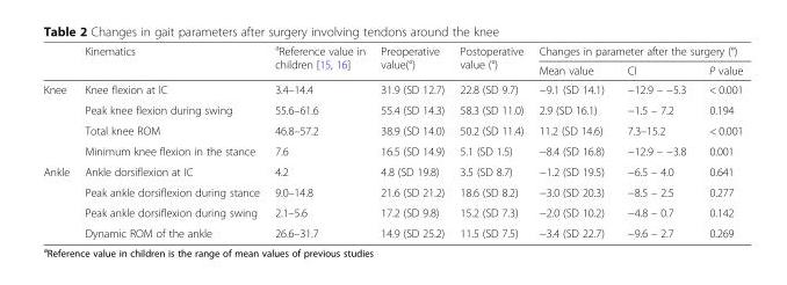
<table><thead><tr><td rowspan="2"></td><td rowspan="2">Kinematics</td><td rowspan="2"><sup>a</sup>Reference value in children [15, 16]</td><td rowspan="2">Preoperative value(°)</td><td rowspan="2">Postoperative value (°)</td><td colspan="3">Changes in parameter after the surgery (°)</td></tr><tr><td>Mean value</td><td>CI</td><td>P value</td></tr></thead><tbody><tr><td rowspan="4">Knee</td><td>Knee flexion at IC</td><td>3.4–14.4</td><td>31.9 (SD 12.7)</td><td>22.8 (SD 9.7)</td><td>−9.1 (SD 14.1)</td><td>−12.9 – −5.3</td><td>&lt; 0.001</td></tr><tr><td>Peak knee flexion during swing</td><td>55.6–61.6</td><td>55.4 (SD 14.3)</td><td>58.3 (SD 11.0)</td><td>2.9 (SD 16.1)</td><td>−1.5 – 7.2</td><td>0.194</td></tr><tr><td>Total knee ROM</td><td>46.8–57.2</td><td>38.9 (SD 14.0)</td><td>50.2 (SD 11.4)</td><td>11.2 (SD 14.6)</td><td>7.3–15.2</td><td>&lt; 0.001</td></tr><tr><td>Minimum knee flexion in the stance</td><td>7.6</td><td>16.5 (SD 14.9)</td><td>5.1 (SD 1.5)</td><td>−8.4 (SD 16.8)</td><td>−12.9 – −3.8</td><td>0.001</td></tr><tr><td rowspan="4">Ankle</td><td>Ankle dorsiflexion at IC</td><td>4.2</td><td>4.8 (SD 19.8)</td><td>3.5 (SD 8.7)</td><td>−1.2 (SD 19.5)</td><td>−6.5 – 4.0</td><td>0.641</td></tr><tr><td>Peak ankle dorsiflexion during stance</td><td>9.0–14.8</td><td>21.6 (SD 21.2)</td><td>18.6 (SD 8.2)</td><td>−3.0 (SD 20.3)</td><td>−8.5 – 2.5</td><td>0.277</td></tr><tr><td>Peak ankle dorsiflexion during swing</td><td>2.1–5.6</td><td>17.2 (SD 9.8)</td><td>15.2 (SD 7.3)</td><td>−2.0 (SD 10.2)</td><td>−4.8 – 0.7</td><td>0.142</td></tr><tr><td>Dynamic ROM of the ankle</td><td>26.6–31.7</td><td>14.9 (SD 25.2)</td><td>11.5 (SD 7.5)</td><td>−3.4 (SD 22.7)</td><td>−9.6 – 2.7</td><td>0.269</td></tr></tbody></table>